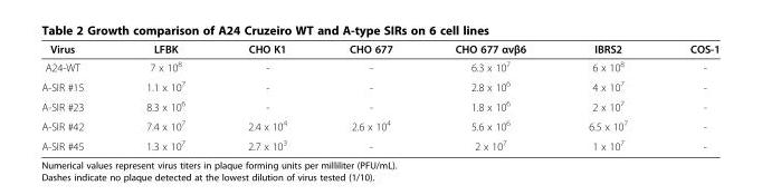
<table><thead><tr><td>Virus</td><td>LFBK</td><td>CHO K1</td><td>CHO 677</td><td>CHO 677 αvβ6</td><td>IBRS2</td><td>COS-1</td></tr></thead><tbody><tr><td>A24-WT</td><td>7 x 10<sup>8</sup></td><td>-</td><td>-</td><td>6.3 x 10<sup>7</sup></td><td>6 x 10<sup>8</sup></td><td>-</td></tr><tr><td>A-SIR #15</td><td>1.1 x 10<sup>7</sup></td><td>-</td><td>-</td><td>2.8 x 10<sup>6</sup></td><td>4 x 10<sup>7</sup></td><td>-</td></tr><tr><td>A-SIR #23</td><td>8.3 x 10<sup>6</sup></td><td>-</td><td>-</td><td>1.8 x 10<sup>6</sup></td><td>2 x 10<sup>7</sup></td><td>-</td></tr><tr><td>A-SIR #42</td><td>7.4 x 10<sup>7</sup></td><td>2.4 x 10<sup>4</sup></td><td>2.6 x 10<sup>4</sup></td><td>5.6 x 10<sup>6</sup></td><td>6.5 x 10<sup>7</sup></td><td>-</td></tr><tr><td>A-SIR #45</td><td>1.3 x 10<sup>7</sup></td><td>2.7 x 10<sup>3</sup></td><td>-</td><td>2 x 10<sup>7</sup></td><td>1 x 10<sup>7</sup></td><td>-</td></tr></tbody></table>